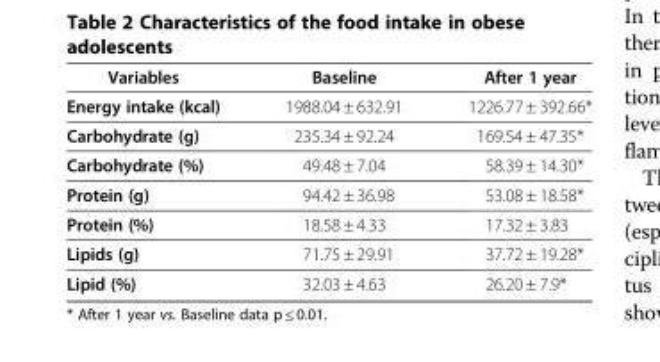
<table><thead><tr><td>Variables</td><td>Baseline</td><td>After 1 year</td></tr></thead><tbody><tr><td>Energy intake (kcal)</td><td>1988.04 ± 632.91</td><td>1226.77 ± 392.66*</td></tr><tr><td>Carbohydrate (g)</td><td>235.34 ± 92.24</td><td>169.54 ± 47.35*</td></tr><tr><td>Carbohydrate (%)</td><td>49.48 ± 7.04</td><td>58.39 ± 14.30*</td></tr><tr><td>Protein (g)</td><td>94.42 ± 36.98</td><td>53.08 ± 18.58*</td></tr><tr><td>Protein (%)</td><td>18.58 ± 4.33</td><td>17.32 ± 3.83</td></tr><tr><td>Lipids (g)</td><td>71.75 ± 29.91</td><td>37.72 ± 19.28*</td></tr><tr><td>Lipid (%)</td><td>32.03 ± 4.63</td><td>26.20 ± 7.9*</td></tr></tbody></table>